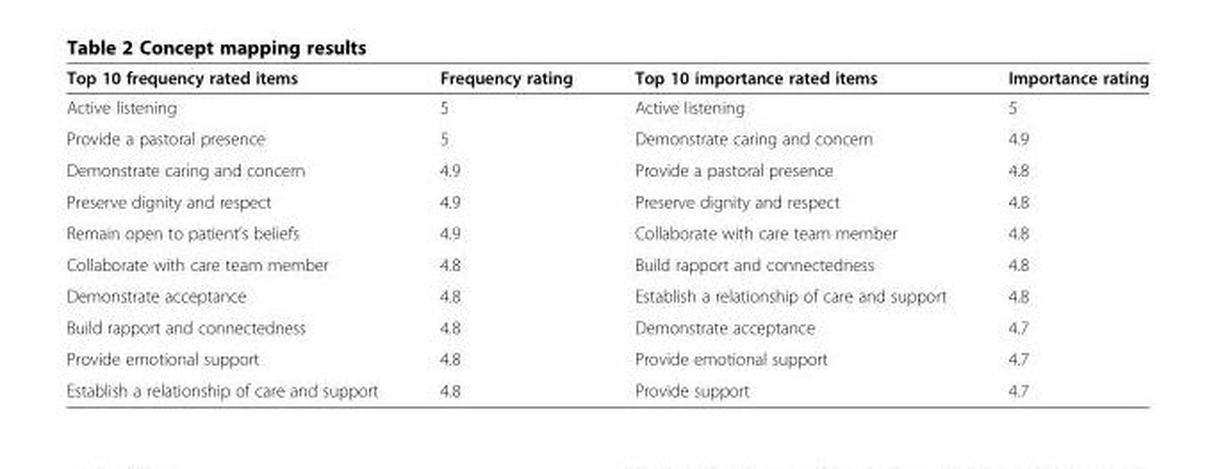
<table><thead><tr><td>Top 10 frequency rated items</td><td>Frequency rating</td><td>Top 10 importance rated items</td><td>Importance rating</td></tr></thead><tbody><tr><td>Active listening</td><td>5</td><td>Active listening</td><td>5</td></tr><tr><td>Provide a pastoral presence</td><td>5</td><td>Demonstrate caring and concern</td><td>4.9</td></tr><tr><td>Demonstrate caring and concern</td><td>4.9</td><td>Provide a pastoral presence</td><td>4.8</td></tr><tr><td>Preserve dignity and respect</td><td>4.9</td><td>Preserve dignity and respect</td><td>4.8</td></tr><tr><td>Remain open to patient’s beliefs</td><td>4.9</td><td>Collaborate with care team member</td><td>4.8</td></tr><tr><td>Collaborate with care team member</td><td>4.8</td><td>Build rapport and connectedness</td><td>4.8</td></tr><tr><td>Demonstrate acceptance</td><td>4.8</td><td>Establish a relationship of care and support</td><td>4.8</td></tr><tr><td>Build rapport and connectedness</td><td>4.8</td><td>Demonstrate acceptance</td><td>4.7</td></tr><tr><td>Provide emotional support</td><td>4.8</td><td>Provide emotional support</td><td>4.7</td></tr><tr><td>Establish a relationship of care and support</td><td>4.8</td><td>Provide support</td><td>4.7</td></tr></tbody></table>